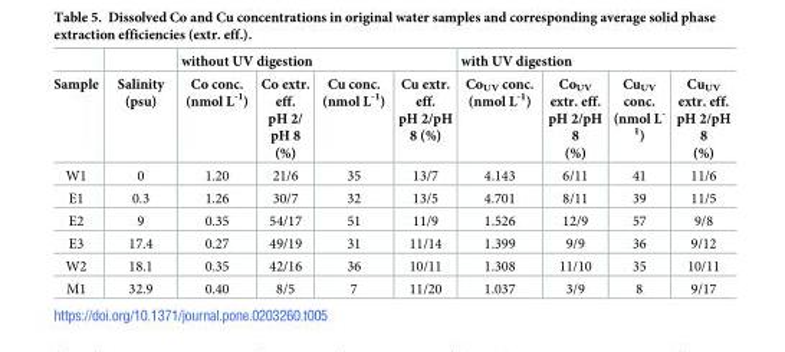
<table><thead><tr><td rowspan="2">Sample</td><td rowspan="2">Salinity (psu)</td><td colspan="4">without UV digestion</td><td colspan="4">with UV digestion</td></tr><tr><td>Co conc. (nmol L<sup>-1</sup>)</td><td>Co extr. eff. pH 2/ pH 8 (%)</td><td>Cu conc. (nmol L<sup>-1</sup>)</td><td>Cu extr. eff. pH 2/pH 8 (%)</td><td>Co<sub>UV</sub> conc. (nmol L<sup>-1</sup>)</td><td>Co<sub>UV</sub> extr. eff. pH 2/pH 8 (%)</td><td>Cu<sub>UV</sub> conc. (nmol L<sup>- 1</sup>)</td><td>Cu<sub>UV</sub> extr. eff. pH 2/pH 8 (%)</td></tr></thead><tbody><tr><td>W1</td><td>0</td><td>1.20</td><td>21/6</td><td>35</td><td>13/7</td><td>4.143</td><td>6/11</td><td>41</td><td>11/6</td></tr><tr><td>E1</td><td>0.3</td><td>1.26</td><td>30/7</td><td>32</td><td>13/5</td><td>4.701</td><td>8/11</td><td>39</td><td>11/5</td></tr><tr><td>E2</td><td>9</td><td>0.35</td><td>54/17</td><td>51</td><td>11/9</td><td>1.526</td><td>12/9</td><td>57</td><td>9/8</td></tr><tr><td>E3</td><td>17.4</td><td>0.27</td><td>49/19</td><td>31</td><td>11/14</td><td>1.399</td><td>9/9</td><td>36</td><td>9/12</td></tr><tr><td>W2</td><td>18.1</td><td>0.35</td><td>42/16</td><td>36</td><td>10/11</td><td>1.308</td><td>11/10</td><td>35</td><td>10/11</td></tr><tr><td>M1</td><td>32.9</td><td>0.40</td><td>8/5</td><td>7</td><td>11/20</td><td>1.037</td><td>3/9</td><td>8</td><td>9/17</td></tr></tbody></table>